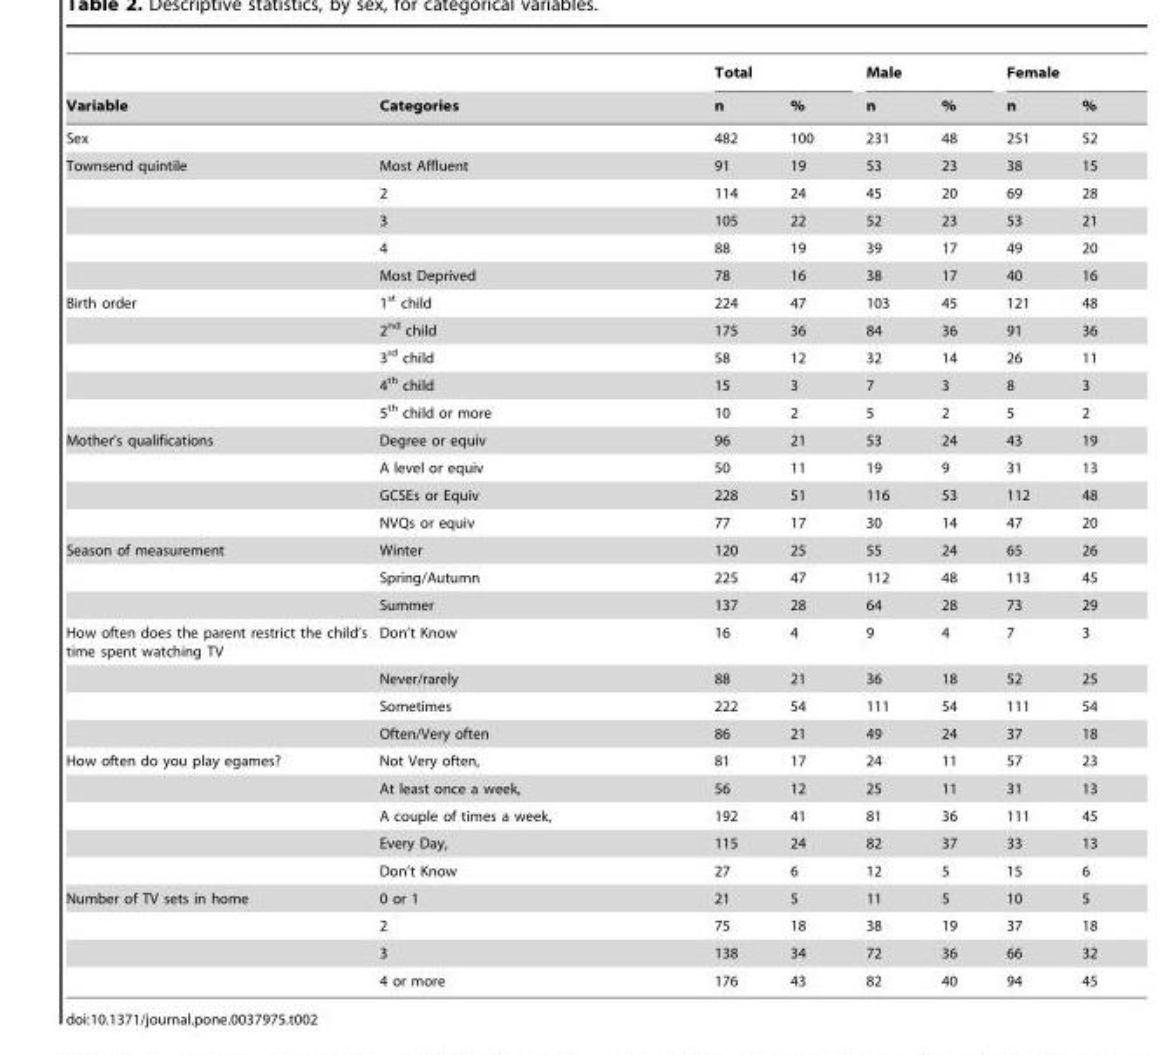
<table><thead><tr><td rowspan="2">Variable</td><td rowspan="2">Categories</td><td colspan="2">Total</td><td colspan="2">Male</td><td colspan="2">Female</td></tr><tr><td>n</td><td>%</td><td>n</td><td>%</td><td>n</td><td>%</td></tr></thead><tbody><tr><td colspan="2">Sex</td><td>482</td><td>100</td><td>231</td><td>48</td><td>251</td><td>52</td></tr><tr><td rowspan="5">Townsend quintile</td><td>Most Affluent</td><td>91</td><td>19</td><td>53</td><td>23</td><td>38</td><td>15</td></tr><tr><td>2</td><td>114</td><td>24</td><td>45</td><td>20</td><td>69</td><td>28</td></tr><tr><td>3</td><td>105</td><td>22</td><td>52</td><td>23</td><td>53</td><td>21</td></tr><tr><td>4</td><td>88</td><td>19</td><td>39</td><td>17</td><td>49</td><td>20</td></tr><tr><td>Most Deprived</td><td>78</td><td>16</td><td>38</td><td>17</td><td>40</td><td>16</td></tr><tr><td rowspan="5">Birth order</td><td>1<sup>st</sup> child</td><td>224</td><td>47</td><td>103</td><td>45</td><td>121</td><td>48</td></tr><tr><td>2<sup>nd</sup> child</td><td>175</td><td>36</td><td>84</td><td>36</td><td>91</td><td>36</td></tr><tr><td>3<sup>rd</sup> child</td><td>58</td><td>12</td><td>32</td><td>14</td><td>26</td><td>11</td></tr><tr><td>4<sup>th</sup> child</td><td>15</td><td>3</td><td>7</td><td>3</td><td>8</td><td>3</td></tr><tr><td>5<sup>th</sup> child or more</td><td>10</td><td>2</td><td>5</td><td>2</td><td>5</td><td>2</td></tr><tr><td rowspan="4">Mother’s qualifications</td><td>Degree or equiv</td><td>96</td><td>21</td><td>53</td><td>24</td><td>43</td><td>19</td></tr><tr><td>A level or equiv</td><td>50</td><td>11</td><td>19</td><td>9</td><td>31</td><td>13</td></tr><tr><td>GCSEs or Equiv</td><td>228</td><td>51</td><td>116</td><td>53</td><td>112</td><td>48</td></tr><tr><td>NVQs or equiv</td><td>77</td><td>17</td><td>30</td><td>14</td><td>47</td><td>20</td></tr><tr><td rowspan="3">Season of measurement</td><td>Winter</td><td>120</td><td>25</td><td>55</td><td>24</td><td>65</td><td>26</td></tr><tr><td>Spring/Autumn</td><td>225</td><td>47</td><td>112</td><td>48</td><td>113</td><td>45</td></tr><tr><td>Summer</td><td>137</td><td>28</td><td>64</td><td>28</td><td>73</td><td>29</td></tr><tr><td rowspan="4">How often does the parent restrict the child’s time spent watching TV</td><td>Don’t Know</td><td>16</td><td>4</td><td>9</td><td>4</td><td>7</td><td>3</td></tr><tr><td>Never/rarely</td><td>88</td><td>21</td><td>36</td><td>18</td><td>52</td><td>25</td></tr><tr><td>Sometimes</td><td>222</td><td>54</td><td>111</td><td>54</td><td>111</td><td>54</td></tr><tr><td>Often/Very often</td><td>86</td><td>21</td><td>49</td><td>24</td><td>37</td><td>18</td></tr><tr><td rowspan="5">How often do you play egames?</td><td>Not Very often,</td><td>81</td><td>17</td><td>24</td><td>11</td><td>57</td><td>23</td></tr><tr><td>At least once a week,</td><td>56</td><td>12</td><td>25</td><td>11</td><td>31</td><td>13</td></tr><tr><td>A couple of times a week,</td><td>192</td><td>41</td><td>81</td><td>36</td><td>111</td><td>45</td></tr><tr><td>Every Day,</td><td>115</td><td>24</td><td>82</td><td>37</td><td>33</td><td>13</td></tr><tr><td>Don’t Know</td><td>27</td><td>6</td><td>12</td><td>5</td><td>15</td><td>6</td></tr><tr><td rowspan="4">Number of TV sets in home</td><td>0 or 1</td><td>21</td><td>5</td><td>11</td><td>5</td><td>10</td><td>5</td></tr><tr><td>2</td><td>75</td><td>18</td><td>38</td><td>19</td><td>37</td><td>18</td></tr><tr><td>3</td><td>138</td><td>34</td><td>72</td><td>36</td><td>66</td><td>32</td></tr><tr><td>4 or more</td><td>176</td><td>43</td><td>82</td><td>40</td><td>94</td><td>45</td></tr></tbody></table>